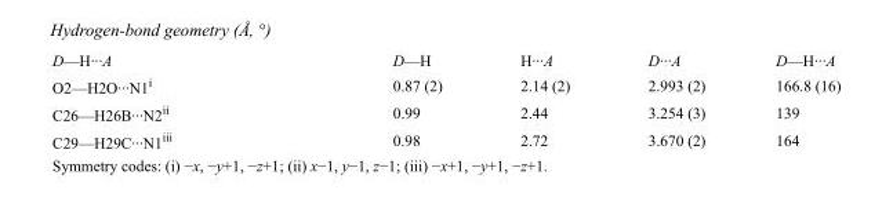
<table><tbody><tr><td>D—H···A</td><td>D—H</td><td>H···A</td><td>D···A</td><td>D—H···A</td></tr><tr><td>O2—H2O···N1<sup>i</sup></td><td>0.87 (2)</td><td>2.14 (2)</td><td>2.993 (2)</td><td>166.8 (16)</td></tr><tr><td>C26—H26B···N2<sup>ii</sup></td><td>0.99</td><td>2.44</td><td>3.254 (3)</td><td>139</td></tr><tr><td>C29—H29C···N1<sup>iii</sup></td><td>0.98</td><td>2.72</td><td>3.670 (2)</td><td>164</td></tr></tbody></table>